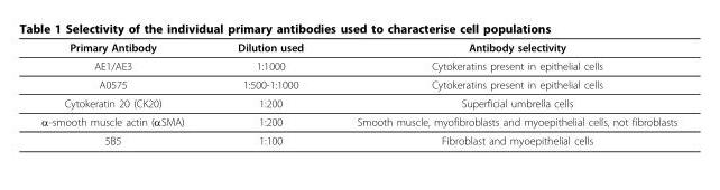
<table><thead><tr><td>Primary Antibody</td><td>Dilution used</td><td>Antibody selectivity</td></tr></thead><tbody><tr><td>AE1/AE3</td><td>1:1000</td><td>Cytokeratins present in epithelial cells</td></tr><tr><td>A0575</td><td>1:500-1:1000</td><td>Cytokeratins present in epithelial cells</td></tr><tr><td>Cytokeratin 20 (CK20)</td><td>1:200</td><td>Superficial umbrella cells</td></tr><tr><td>α-smooth muscle actin (αSMA)</td><td>1:200</td><td>Smooth muscle, myofibroblasts and myoepithelial cells, not fibroblasts</td></tr><tr><td>5B5</td><td>1:100</td><td>Fibroblast and myoepithelial cells</td></tr></tbody></table>